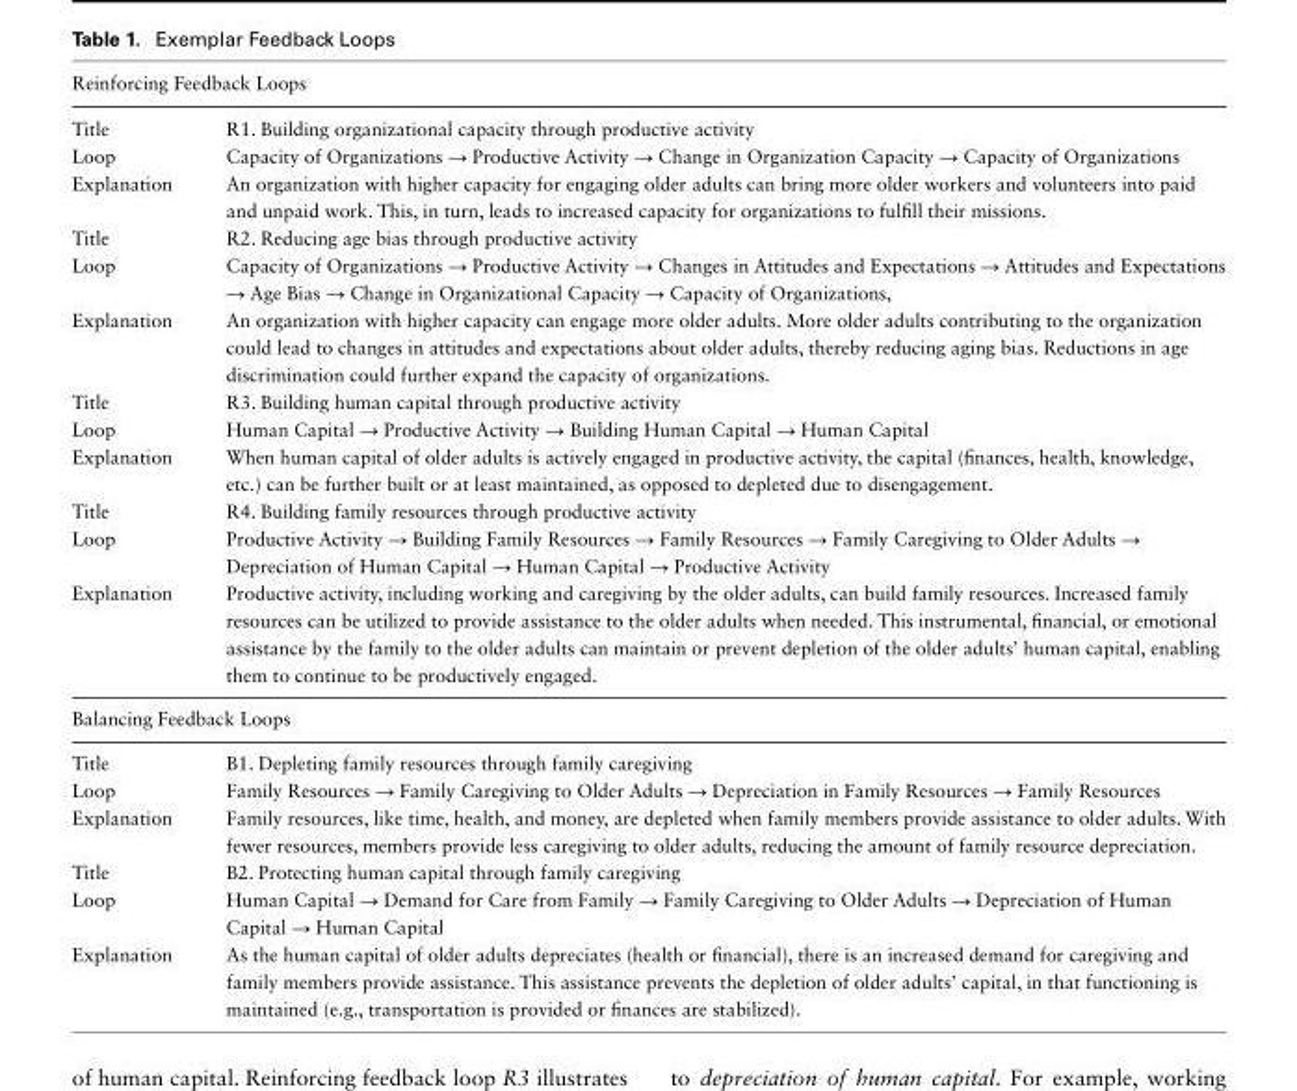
<table><thead><tr><td colspan="2">Reinforcing Feedback Loops</td></tr><tr><td>Title</td><td>R1. Building organizational capacity through productive activity</td></tr></thead><tbody><tr><td>Loop</td><td>Capacity of Organizations → Productive Activity → Change in Organization Capacity → Capacity of Organizations</td></tr><tr><td>Explanation</td><td>An organization with higher capacity for engaging older adults can bring more older workers and volunteers into paid and unpaid work. This, in turn, leads to increased capacity for organizations to fulfill their missions.</td></tr><tr><td>Title</td><td>R2. Reducing age bias through productive activity</td></tr><tr><td>Loop</td><td>Capacity of Organizations → Productive Activity → Changes in Attitudes and Expectations → Attitudes and Expectations → Age Bias → Change in Organizational Capacity → Capacity of Organizations,</td></tr><tr><td>Explanation</td><td>An organization with higher capacity can engage more older adults. More older adults contributing to the organization could lead to changes in attitudes and expectations about older adults, thereby reducing aging bias. Reductions in age discrimination could further expand the capacity of organizations.</td></tr><tr><td>Title</td><td>R3. Building human capital through productive activity</td></tr><tr><td>Loop</td><td>Human Capital → Productive Activity → Building Human Capital → Human Capital</td></tr><tr><td>Explanation</td><td>When human capital of older adults is actively engaged in productive activity, the capital (finances, health, knowledge, etc.) can be further built or at least maintained, as opposed to depleted due to disengagement.</td></tr><tr><td>Title</td><td>R4. Building family resources through productive activity</td></tr><tr><td>Loop</td><td>Productive Activity → Building Family Resources → Family Resources → Family Caregiving to Older Adults → Depreciation of Human Capital → Human Capital → Productive Activity</td></tr><tr><td>Explanation</td><td>Productive activity, including working and caregiving by the older adults, can build family resources. Increased family resources can be utilized to provide assistance to the older adults when needed. This instrumental, financial, or emotional assistance by the family to the older adults can maintain or prevent depletion of the older adults’ human capital, enabling them to continue to be productively engaged.</td></tr><tr><td colspan="2">Balancing Feedback Loops</td></tr><tr><td>Title</td><td>B1. Depleting family resources through family caregiving</td></tr><tr><td>Loop</td><td>Family Resources → Family Caregiving to Older Adults → Depreciation in Family Resources → Family Resources</td></tr><tr><td>Explanation</td><td>Family resources, like time, health, and money, are depleted when family members provide assistance to older adults. With fewer resources, members provide less caregiving to older adults, reducing the amount of family resource depreciation.</td></tr><tr><td>Title</td><td>B2. Protecting human capital through family caregiving</td></tr><tr><td>Loop</td><td>Human Capital → Demand for Care from Family → Family Caregiving to Older Adults → Depreciation of Human Capital → Human Capital</td></tr><tr><td>Explanation</td><td>As the human capital of older adults depreciates (health or financial), there is an increased demand for caregiving and family members provide assistance. This assistance prevents the depletion of older adults’ capital, in that functioning is maintained (e.g., transportation is provided or finances are stabilized).</td></tr></tbody></table>